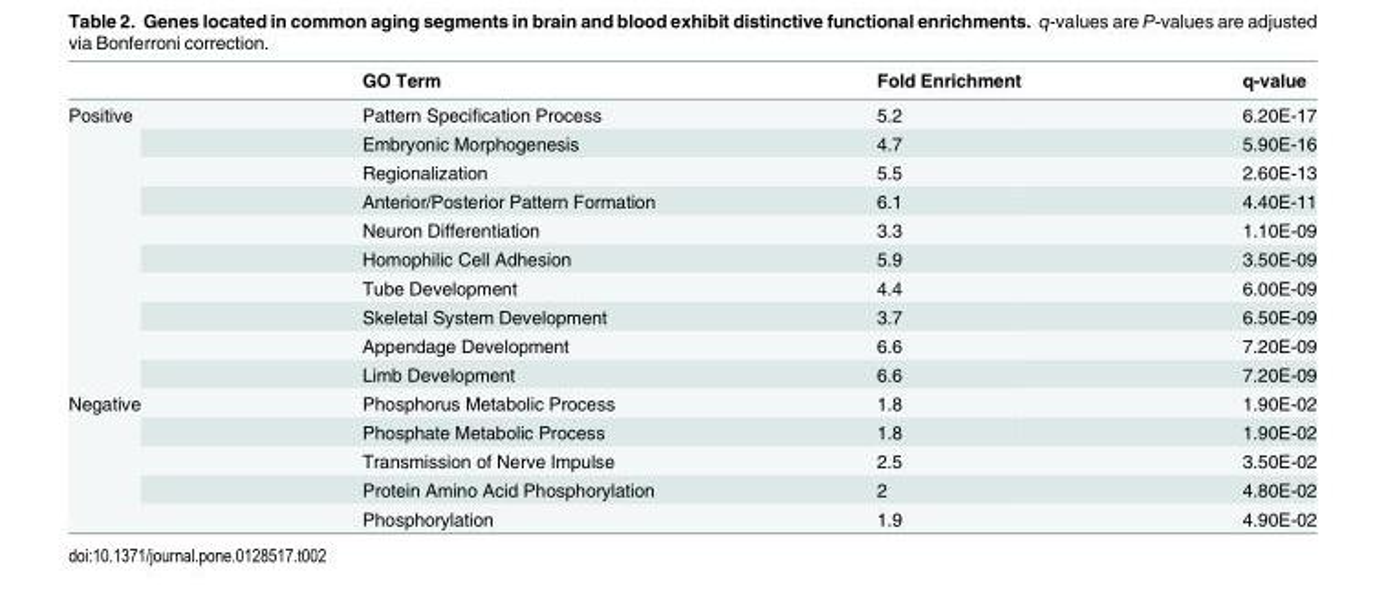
<table><thead><tr><td></td><td>GO Term</td><td>Fold Enrichment</td><td>q-value</td></tr></thead><tbody><tr><td rowspan="10">Positive</td><td>Pattern Specification Process</td><td>5.2</td><td>6.20E-17</td></tr><tr><td>Embryonic Morphogenesis</td><td>4.7</td><td>5.90E-16</td></tr><tr><td>Regionalization</td><td>5.5</td><td>2.60E-13</td></tr><tr><td>Anterior/Posterior Pattern Formation</td><td>6.1</td><td>4.40E-11</td></tr><tr><td>Neuron Differentiation</td><td>3.3</td><td>1.10E-09</td></tr><tr><td>Homophilic Cell Adhesion</td><td>5.9</td><td>3.50E-09</td></tr><tr><td>Tube Development</td><td>4.4</td><td>6.00E-09</td></tr><tr><td>Skeletal System Development</td><td>3.7</td><td>6.50E-09</td></tr><tr><td>Appendage Development</td><td>6.6</td><td>7.20E-09</td></tr><tr><td>Limb Development</td><td>6.6</td><td>7.20E-09</td></tr><tr><td rowspan="5">Negative</td><td>Phosphorus Metabolic Process</td><td>1.8</td><td>1.90E-02</td></tr><tr><td>Phosphate Metabolic Process</td><td>1.8</td><td>1.90E-02</td></tr><tr><td>Transmission of Nerve Impulse</td><td>2.5</td><td>3.50E-02</td></tr><tr><td>Protein Amino Acid Phosphorylation</td><td>2</td><td>4.80E-02</td></tr><tr><td>Phosphorylation</td><td>1.9</td><td>4.90E-02</td></tr></tbody></table>